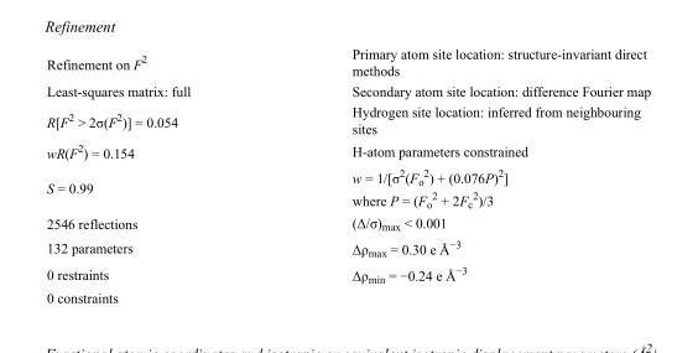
<table><tbody><tr><td>Refinement on F<sup>2</sup></td><td>Primary atom site location: structure-invariant direct methods</td></tr><tr><td>Least-squares matrix: full</td><td>Secondary atom site location: difference Fourier map</td></tr><tr><td>R[F<sup>2</sup> &gt; 2σ(F<sup>2</sup>)] = 0.054</td><td>Hydrogen site location: inferred from neighbouring sites</td></tr><tr><td>wR(F<sup>2</sup>) = 0.154</td><td>H-atom parameters constrained</td></tr><tr><td>S = 0.99</td><td>w = 1/[σ<sup>2</sup>(F<sub>o</sub> <sup>2</sup>) + (0.076P)<sup>2</sup>] where P = (F<sub>o</sub> <sup>2</sup> + 2F<sub>c</sub> <sup>2</sup>)/3</td></tr><tr><td>2546 reflections</td><td>(Δ/σ)<sub>max</sub> &lt; 0.001</td></tr><tr><td>132 parameters</td><td>Δρ<sub>max</sub> = 0.30 e Å<sup>−3</sup></td></tr><tr><td>0 restraints</td><td>Δρ<sub>min</sub> = −0.24 e Å<sup>−3</sup></td></tr><tr><td>0 constraints</td><td></td></tr></tbody></table>